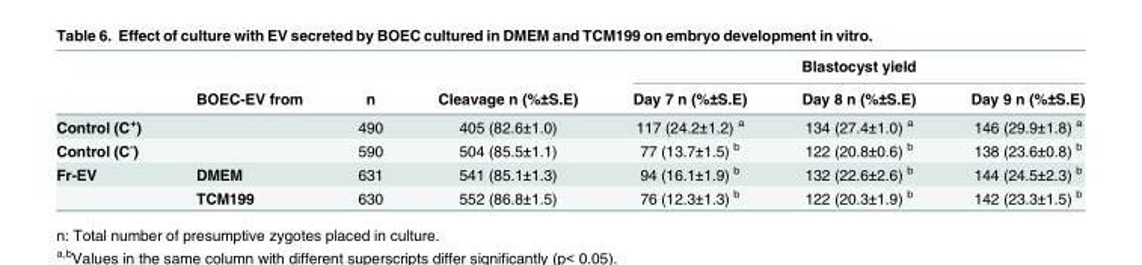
<table><thead><tr><td rowspan="2"></td><td rowspan="2">BOEC-EV from</td><td rowspan="2">n</td><td rowspan="2">Cleavage n (%±S.E)</td><td colspan="3">Blastocyst yield</td></tr><tr><td>Day 7 n (%±S.E)</td><td>Day 8 n (%±S.E)</td><td>Day 9 n (%±S.E)</td></tr></thead><tbody><tr><td>Control (C<sup>+</sup>)</td><td></td><td>490</td><td>405 (82.6±1.0)</td><td>117 (24.2±1.2) <sup>a</sup></td><td>134 (27.4±1.0) <sup>a</sup></td><td>146 (29.9±1.8) <sup>a</sup></td></tr><tr><td>Control (C<sup>-</sup>)</td><td></td><td>590</td><td>504 (85.5±1.1)</td><td>77 (13.7±1.5) <sup>b</sup></td><td>122 (20.8±0.6) <sup>b</sup></td><td>138 (23.6±0.8) <sup>b</sup></td></tr><tr><td rowspan="2">Fr-EV</td><td>DMEM</td><td>631</td><td>541 (85.1±1.3)</td><td>94 (16.1±1.9) <sup>b</sup></td><td>132 (22.6±2.6) <sup>b</sup></td><td>144 (24.5±2.3) <sup>b</sup></td></tr><tr><td>TCM199</td><td>630</td><td>552 (86.8±1.5)</td><td>76 (12.3±1.3) <sup>b</sup></td><td>122 (20.3±1.9) <sup>b</sup></td><td>142 (23.3±1.5) <sup>b</sup></td></tr></tbody></table>